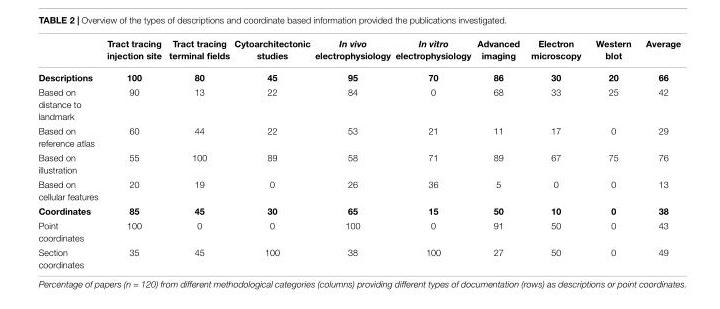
<table><thead><tr><td></td><td>Tract tracing injection site</td><td>Tract tracing terminal fields</td><td>Cytoarchitectonic studies</td><td>In vivo electrophysiology</td><td>In vitro electrophysiology</td><td>Advanced imaging</td><td>Electron microscopy</td><td>Western blot</td><td>Average</td></tr></thead><tbody><tr><td>Descriptions</td><td>100</td><td>80</td><td>45</td><td>95</td><td>70</td><td>86</td><td>30</td><td>20</td><td>66</td></tr><tr><td>Based on distance to landmark</td><td>90</td><td>13</td><td>22</td><td>84</td><td>0</td><td>68</td><td>33</td><td>25</td><td>42</td></tr><tr><td>Based on reference atlas</td><td>60</td><td>44</td><td>22</td><td>53</td><td>21</td><td>11</td><td>17</td><td>0</td><td>29</td></tr><tr><td>Based on illustration</td><td>55</td><td>100</td><td>89</td><td>58</td><td>71</td><td>89</td><td>67</td><td>75</td><td>76</td></tr><tr><td>Based on cellular features</td><td>20</td><td>19</td><td>0</td><td>26</td><td>36</td><td>5</td><td>0</td><td>0</td><td>13</td></tr><tr><td>Coordinates</td><td>85</td><td>45</td><td>30</td><td>65</td><td>15</td><td>50</td><td>10</td><td>0</td><td>38</td></tr><tr><td>Point coordinates</td><td>100</td><td>0</td><td>0</td><td>100</td><td>0</td><td>91</td><td>50</td><td>0</td><td>43</td></tr><tr><td>Section coordinates</td><td>35</td><td>45</td><td>100</td><td>38</td><td>100</td><td>27</td><td>50</td><td>0</td><td>49</td></tr></tbody></table>